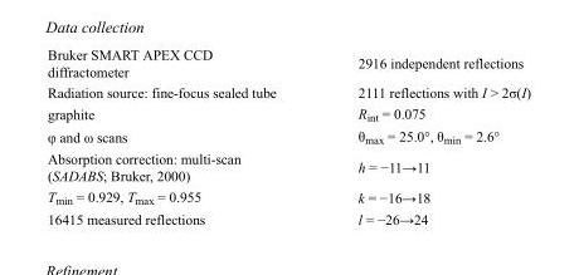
<table><tbody><tr><td>Bruker SMART APEX CCD diffractometer</td><td>2916 independent reflections</td></tr><tr><td>Radiation source: fine-focus sealed tube</td><td>2111 reflections with I &gt; 2σ(I)</td></tr><tr><td>graphite</td><td>R<sub>int</sub> = 0.075</td></tr><tr><td>φ and ω scans</td><td>θ<sub>max</sub> = 25.0°, θ<sub>min</sub> = 2.6°</td></tr><tr><td>Absorption correction: multi-scan (SADABS; Bruker, 2000)</td><td>h = −11→11</td></tr><tr><td>T<sub>min</sub> = 0.929, T<sub>max</sub> = 0.955</td><td>k = −16→18</td></tr><tr><td>16415 measured reflections</td><td>l = −26→24</td></tr></tbody></table>